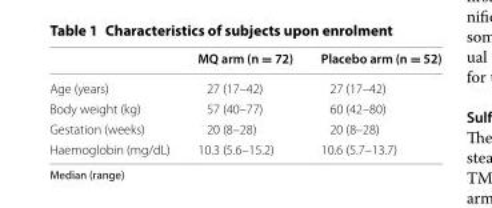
<table><thead><tr><td></td><td>MQ arm (n = 72)</td><td>Placebo arm (n = 52)</td></tr></thead><tbody><tr><td>Age (years)</td><td>27 (17–42)</td><td>27 (17–42)</td></tr><tr><td>Body weight (kg)</td><td>57 (40–77)</td><td>60 (42–80)</td></tr><tr><td>Gestation (weeks)</td><td>20 (8–28)</td><td>20 (8–28)</td></tr><tr><td>Haemoglobin (mg/dL)</td><td>10.3 (5.6–15.2)</td><td>10.6 (5.7–13.7)</td></tr></tbody></table>